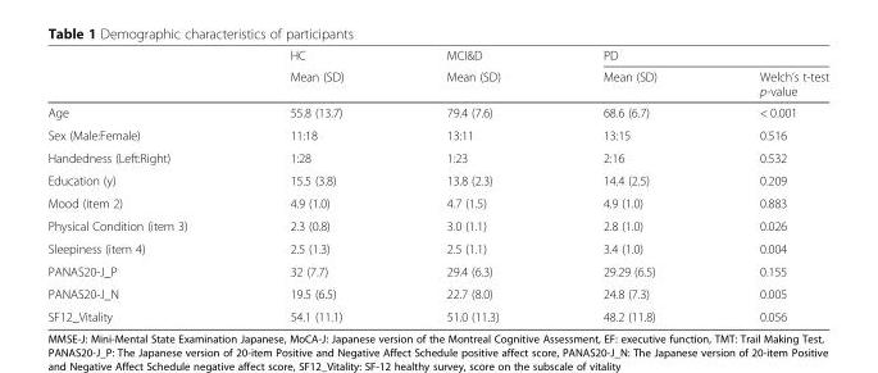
<table><thead><tr><td rowspan="2"></td><td rowspan="2">HC Mean (SD)</td><td rowspan="2">MCI&amp;D Mean (SD)</td><td colspan="2">PD</td></tr><tr><td>Mean (SD)</td><td>Welch’s t-test p-value</td></tr></thead><tbody><tr><td>Age</td><td>55.8 (13.7)</td><td>79.4 (7.6)</td><td>68.6 (6.7)</td><td>&lt; 0.001</td></tr><tr><td>Sex (Male:Female)</td><td>11:18</td><td>13:11</td><td>13:15</td><td>0.516</td></tr><tr><td>Handedness (Left:Right)</td><td>1:28</td><td>1:23</td><td>2:16</td><td>0.532</td></tr><tr><td>Education (y)</td><td>15.5 (3.8)</td><td>13.8 (2.3)</td><td>14.4 (2.5)</td><td>0.209</td></tr><tr><td>Mood (item 2)</td><td>4.9 (1.0)</td><td>4.7 (1.5)</td><td>4.9 (1.0)</td><td>0.883</td></tr><tr><td>Physical Condition (item 3)</td><td>2.3 (0.8)</td><td>3.0 (1.1)</td><td>2.8 (1.0)</td><td>0.026</td></tr><tr><td>Sleepiness (item 4)</td><td>2.5 (1.3)</td><td>2.5 (1.1)</td><td>3.4 (1.0)</td><td>0.004</td></tr><tr><td>PANAS20-J_P</td><td>32 (7.7)</td><td>29.4 (6.3)</td><td>29.29 (6.5)</td><td>0.155</td></tr><tr><td>PANAS20-J_N</td><td>19.5 (6.5)</td><td>22.7 (8.0)</td><td>24.8 (7.3)</td><td>0.005</td></tr><tr><td>SF12_Vitality</td><td>54.1 (11.1)</td><td>51.0 (11.3)</td><td>48.2 (11.8)</td><td>0.056</td></tr></tbody></table>